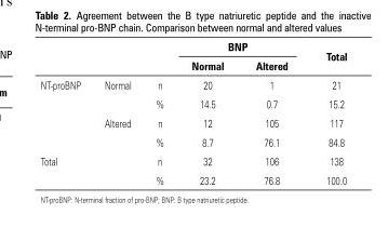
<table><thead><tr><td rowspan="2"></td><td rowspan="2"></td><td rowspan="2"></td><td colspan="2">BNP</td><td rowspan="2">Total</td></tr><tr><td>Normal</td><td>Altered</td></tr></thead><tbody><tr><td rowspan="4">NT-proBNP</td><td>Normal</td><td>n</td><td>20</td><td>1</td><td>21</td></tr><tr><td></td><td>%</td><td>14.5</td><td>0.7</td><td>15.2</td></tr><tr><td>Altered</td><td>n</td><td>12</td><td>105</td><td>117</td></tr><tr><td></td><td>%</td><td>8.7</td><td>76.1</td><td>84.8</td></tr><tr><td rowspan="2">Total</td><td></td><td>n</td><td>32</td><td>106</td><td>138</td></tr><tr><td></td><td>%</td><td>23.2</td><td>76.8</td><td>100.0</td></tr></tbody></table>